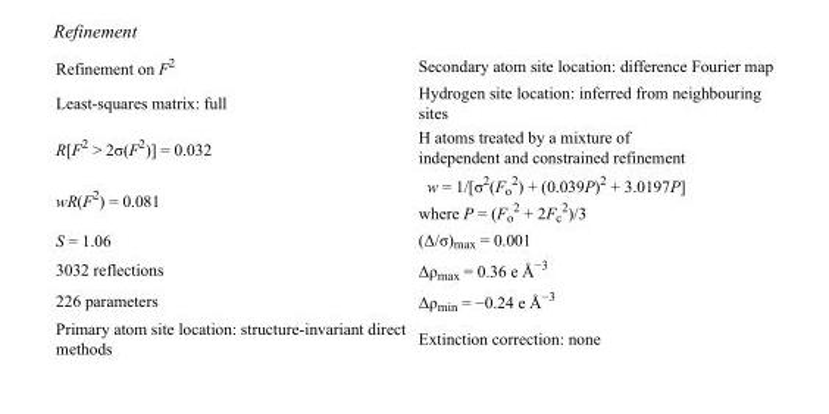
<table><tbody><tr><td>Refinement on F<sup>2</sup></td><td>Secondary atom site location: difference Fourier map</td></tr><tr><td>Least-squares matrix: full</td><td>Hydrogen site location: inferred from neighbouring sites</td></tr><tr><td>R[F<sup>2</sup> &gt; 2σ(F<sup>2</sup>)] = 0.032</td><td>H atoms treated by a mixture of independent and constrained refinement</td></tr><tr><td>wR(F<sup>2</sup>) = 0.081</td><td>w = 1/[σ<sup>2</sup>(F<sub>o</sub> <sup>2</sup>) + (0.039P)<sup>2</sup> + 3.0197P] where P = (F<sub>o</sub> <sup>2</sup> + 2F<sub>c</sub> <sup>2</sup>)/3</td></tr><tr><td>S = 1.06</td><td>(Δ/σ)<sub>max</sub> = 0.001</td></tr><tr><td>3032 reflections</td><td>Δρ<sub>max</sub> = 0.36 e Å<sup>−3</sup></td></tr><tr><td>226 parameters</td><td>Δρ<sub>min</sub> = −0.24 e Å<sup>−3</sup></td></tr><tr><td>Primary atom site location: structure-invariant direct methods</td><td>Extinction correction: none</td></tr></tbody></table>